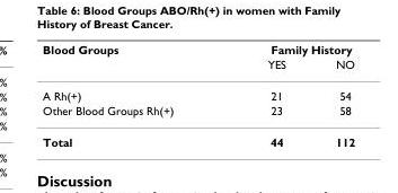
<table><thead><tr><td rowspan="2">Blood Groups</td><td colspan="2">Family History</td></tr><tr><td>YES</td><td>NO</td></tr></thead><tbody><tr><td>A Rh(+)</td><td>21</td><td>54</td></tr><tr><td>Other Blood Groups Rh(+)</td><td>23</td><td>58</td></tr><tr><td>Total</td><td>44</td><td>112</td></tr></tbody></table>